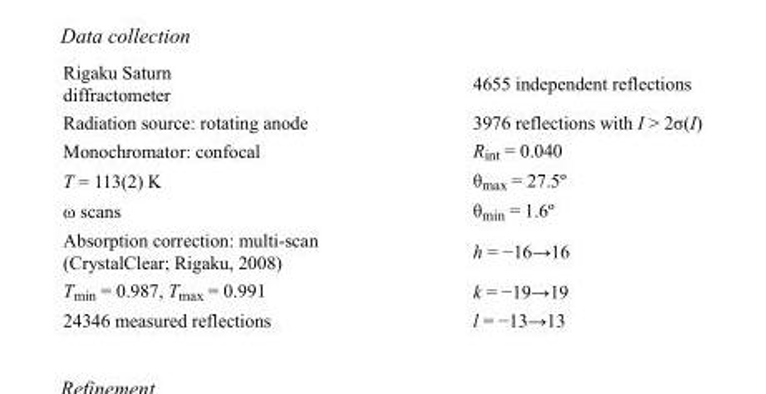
<table><tbody><tr><td>Rigaku Saturn diffractometer</td><td>4655 independent reflections</td></tr><tr><td>Radiation source: rotating anode</td><td>3976 reflections with I &gt; 2σ(I)</td></tr><tr><td>Monochromator: confocal</td><td>R<sub>int</sub> = 0.040</td></tr><tr><td>T = 113(2) K</td><td>θ<sub>max</sub> = 27.5º</td></tr><tr><td>ω scans</td><td>θ<sub>min</sub> = 1.6º</td></tr><tr><td>Absorption correction: multi-scan (CrystalClear; Rigaku, 2008)</td><td>h = −16→16</td></tr><tr><td>T<sub>min</sub> = 0.987, T<sub>max</sub> = 0.991</td><td>k = −19→19</td></tr><tr><td>24346 measured reflections</td><td>l = −13→13</td></tr></tbody></table>